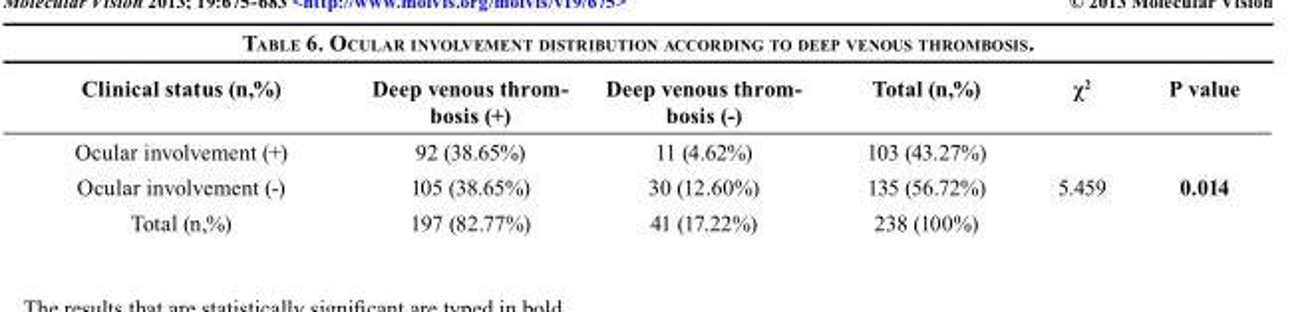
<table><thead><tr><td>Clinical status (n,%)</td><td>Deep venous throm- bosis (+)</td><td>Deep venous throm- bosis (-)</td><td>Total (n,%)</td><td>χ<sup>2</sup></td><td>P value</td></tr></thead><tbody><tr><td>Ocular involvement (+)</td><td>92 (38.65%)</td><td>11 (4.62%)</td><td>103 (43.27%)</td><td></td><td></td></tr><tr><td>Ocular involvement (-)</td><td>105 (38.65%)</td><td>30 (12.60%)</td><td>135 (56.72%)</td><td>5.459</td><td>0.014</td></tr><tr><td>Total (n,%)</td><td>197 (82.77%)</td><td>41 (17.22%)</td><td>238 (100%)</td><td></td><td></td></tr></tbody></table>